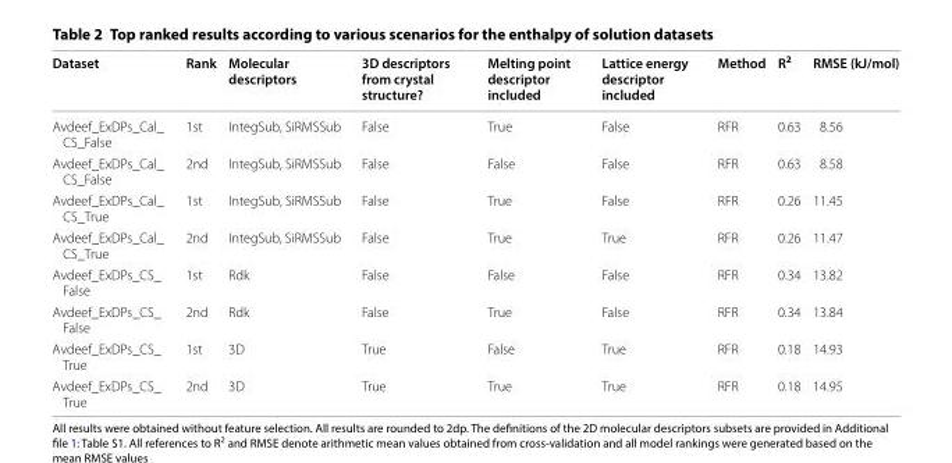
<table><thead><tr><td>Dataset</td><td>Rank</td><td>Molecular descriptors</td><td>3D descriptors from crystal structure?</td><td>Melting point descriptor included</td><td>Lattice energy descriptor included</td><td>Method</td><td>R<sup>2</sup></td><td>RMSE (kJ/mol)</td></tr></thead><tbody><tr><td>Avdeef_ExDPs_Cal_ CS_False</td><td>1st</td><td>IntegSub, SiRMSSub</td><td>False</td><td>True</td><td>False</td><td>RFR</td><td>0.63</td><td>8.56</td></tr><tr><td>Avdeef_ExDPs_Cal_ CS_False</td><td>2nd</td><td>IntegSub, SiRMSSub</td><td>False</td><td>False</td><td>False</td><td>RFR</td><td>0.63</td><td>8.58</td></tr><tr><td>Avdeef_ExDPs_Cal_ CS_True</td><td>1st</td><td>IntegSub, SiRMSSub</td><td>False</td><td>True</td><td>False</td><td>RFR</td><td>0.26</td><td>11.45</td></tr><tr><td>Avdeef_ExDPs_Cal_ CS_True</td><td>2nd</td><td>IntegSub, SiRMSSub</td><td>False</td><td>True</td><td>True</td><td>RFR</td><td>0.26</td><td>11.47</td></tr><tr><td>Avdeef_ExDPs_CS_ False</td><td>1st</td><td>Rdk</td><td>False</td><td>False</td><td>False</td><td>RFR</td><td>0.34</td><td>13.82</td></tr><tr><td>Avdeef_ExDPs_CS_ False</td><td>2nd</td><td>Rdk</td><td>False</td><td>True</td><td>False</td><td>RFR</td><td>0.34</td><td>13.84</td></tr><tr><td>Avdeef_ExDPs_CS_ True</td><td>1st</td><td>3D</td><td>True</td><td>False</td><td>True</td><td>RFR</td><td>0.18</td><td>14.93</td></tr><tr><td>Avdeef_ExDPs_CS_ True</td><td>2nd</td><td>3D</td><td>True</td><td>True</td><td>True</td><td>RFR</td><td>0.18</td><td>14.95</td></tr></tbody></table>